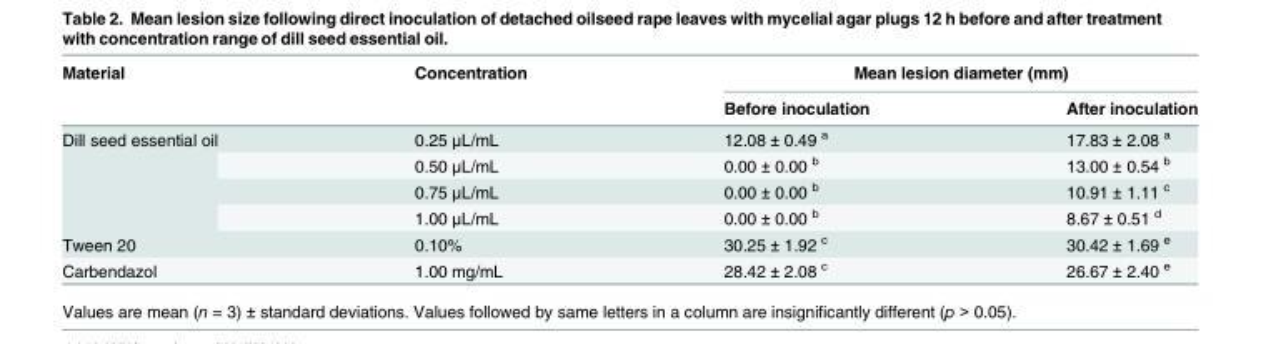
<table><thead><tr><td rowspan="2">Material</td><td rowspan="2">Concentration</td><td colspan="2">Mean lesion diameter (mm)</td></tr><tr><td>Before inoculation</td><td>After inoculation</td></tr></thead><tbody><tr><td rowspan="4">Dill seed essential oil</td><td>0.25 μL/mL</td><td>12.08 ± 0.49 <sup>a</sup></td><td>17.83 ± 2.08 <sup>a</sup></td></tr><tr><td>0.50 μL/mL</td><td>0.00 ± 0.00 <sup>b</sup></td><td>13.00 ± 0.54 <sup>b</sup></td></tr><tr><td>0.75 μL/mL</td><td>0.00 ± 0.00 <sup>b</sup></td><td>10.91 ± 1.11 <sup>c</sup></td></tr><tr><td>1.00 μL/mL</td><td>0.00 ± 0.00 <sup>b</sup></td><td>8.67 ± 0.51 <sup>d</sup></td></tr><tr><td>Tween 20</td><td>0.10%</td><td>30.25 ± 1.92 <sup>c</sup></td><td>30.42 ± 1.69 <sup>e</sup></td></tr><tr><td>Carbendazol</td><td>1.00 mg/mL</td><td>28.42 ± 2.08 <sup>c</sup></td><td>26.67 ± 2.40 <sup>e</sup></td></tr></tbody></table>